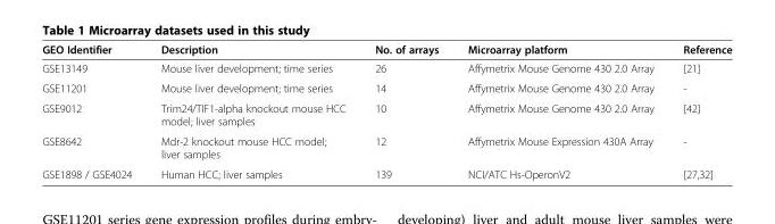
<table><thead><tr><td>GEO Identifier</td><td>Description</td><td>No. of arrays</td><td>Microarray platform</td><td>Reference</td></tr></thead><tbody><tr><td>GSE13149</td><td>Mouse liver development; time series</td><td>26</td><td>Affymetrix Mouse Genome 430 2.0 Array</td><td>[21]</td></tr><tr><td>GSE11201</td><td>Mouse liver development; time series</td><td>14</td><td>Affymetrix Mouse Genome 430 2.0 Array</td><td>-</td></tr><tr><td>GSE9012</td><td>Trim24/TIF1-alpha knockout mouse HCC model; liver samples</td><td>10</td><td>Affymetrix Mouse Genome 430 2.0 Array</td><td>[42]</td></tr><tr><td>GSE8642</td><td>Mdr-2 knockout mouse HCC model; liver samples</td><td>12</td><td>Affymetrix Mouse Expression 430A Array</td><td>-</td></tr><tr><td>GSE1898 / GSE4024</td><td>Human HCC; liver samples</td><td>139</td><td>NCI/ATC Hs-OperonV2</td><td>[27,32]</td></tr></tbody></table>